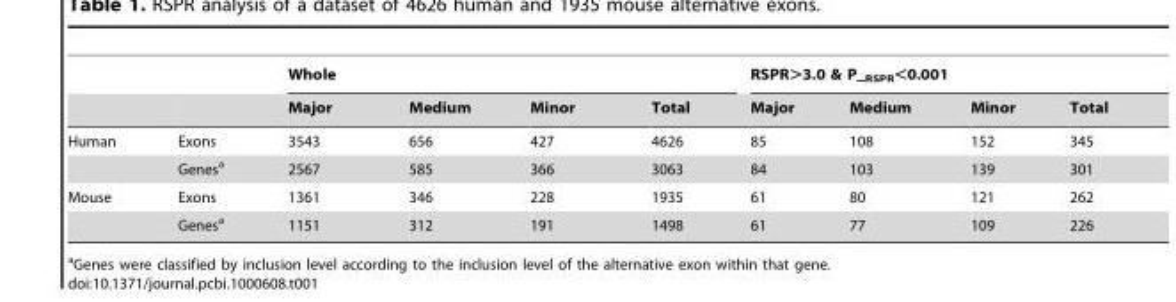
<table><thead><tr><td rowspan="2"></td><td rowspan="2"></td><td colspan="4">Whole</td><td colspan="4">RSPR.3.0 &amp; P__RSPR,0.001</td></tr><tr><td>Major</td><td>Medium</td><td>Minor</td><td>Total</td><td>Major</td><td>Medium</td><td>Minor</td><td>Total</td></tr></thead><tbody><tr><td rowspan="2">Human</td><td>Exons</td><td>3543</td><td>656</td><td>427</td><td>4626</td><td>85</td><td>108</td><td>152</td><td>345</td></tr><tr><td>Genes<sup>a</sup></td><td>2567</td><td>585</td><td>366</td><td>3063</td><td>84</td><td>103</td><td>139</td><td>301</td></tr><tr><td rowspan="2">Mouse</td><td>Exons</td><td>1361</td><td>346</td><td>228</td><td>1935</td><td>61</td><td>80</td><td>121</td><td>262</td></tr><tr><td>Genes<sup>a</sup></td><td>1151</td><td>312</td><td>191</td><td>1498</td><td>61</td><td>77</td><td>109</td><td>226</td></tr></tbody></table>